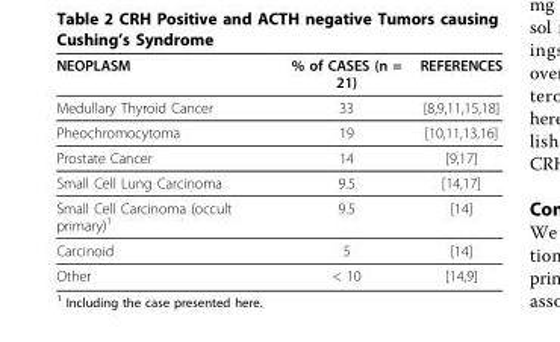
<table><thead><tr><td>NEOPLASM</td><td>% of CASES (n = 21)</td><td>REFERENCES</td></tr></thead><tbody><tr><td>Medullary Thyroid Cancer</td><td>33</td><td>[8,9,11,15,18]</td></tr><tr><td>Pheochromocytoma</td><td>19</td><td>[10,11,13,16]</td></tr><tr><td>Prostate Cancer</td><td>14</td><td>[9,17]</td></tr><tr><td>Small Cell Lung Carcinoma</td><td>9.5</td><td>[14,17]</td></tr><tr><td>Small Cell Carcinoma (occult primary)<sup>1</sup></td><td>9.5</td><td>[14]</td></tr><tr><td>Carcinoid</td><td>5</td><td>[14]</td></tr><tr><td>Other</td><td>&lt; 10</td><td>[14,9]</td></tr></tbody></table>